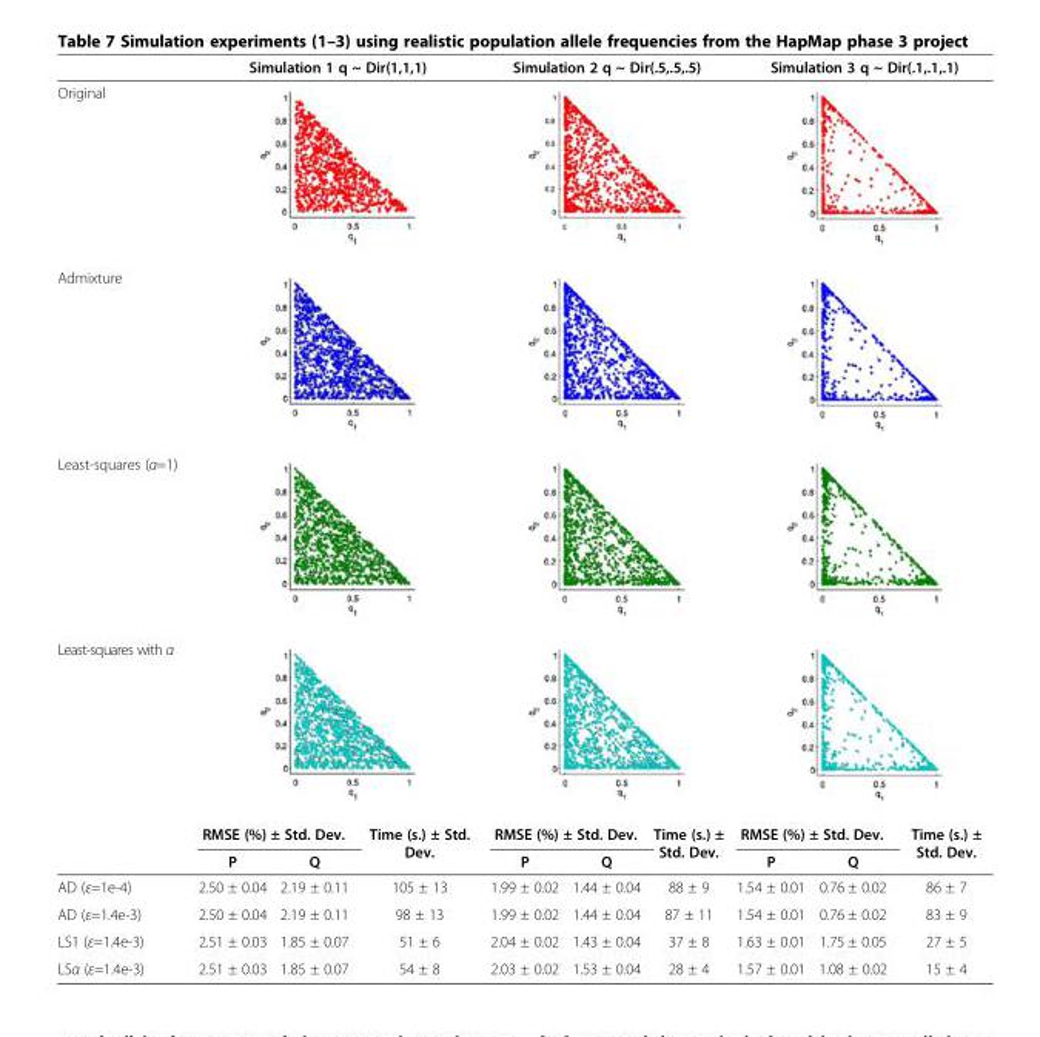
<table><thead><tr><td rowspan="2">Original</td><td colspan="3">Simulation 1 q ~ Dir(1,1,1)</td><td colspan="3">Simulation 2 q ~ Dir(.5,.5,.5)</td><td colspan="3">Simulation 3 q ~ Dir(.1,.1,.1)</td></tr><tr><td></td><td></td><td></td><td></td><td></td><td></td><td></td><td></td><td></td></tr></thead><tbody><tr><td colspan="10">Admixture</td></tr><tr><td colspan="10">Least-squares (α=1)</td></tr><tr><td colspan="10">Least-squares with α</td></tr><tr><td></td><td colspan="2">RMSE (%) ± Std. Dev.</td><td rowspan="2">Time (s.) ± Std. Dev.</td><td colspan="2">RMSE (%) ± Std. Dev.</td><td rowspan="2">Time (s.) ± Std. Dev.</td><td colspan="2">RMSE (%) ± Std. Dev.</td><td rowspan="2">Time (s.) ± Std. Dev.</td></tr><tr><td></td><td>P</td><td>Q</td><td>P</td><td>Q</td><td>P</td><td>Q</td></tr><tr><td>AD (ε=1e-4)</td><td>2.50 ± 0.04</td><td>2.19 ± 0.11</td><td>105 ± 13</td><td>1.99 ± 0.02</td><td>1.44 ± 0.04</td><td>88 ± 9</td><td>1.54 ± 0.01</td><td>0.76 ± 0.02</td><td>86 ± 7</td></tr><tr><td>AD (ε=1.4e-3)</td><td>2.50 ± 0.04</td><td>2.19 ± 0.11</td><td>98 ± 13</td><td>1.99 ± 0.02</td><td>1.44 ± 0.04</td><td>87 ± 11</td><td>1.54 ± 0.01</td><td>0.76 ± 0.02</td><td>83 ± 9</td></tr><tr><td>LS1 (ε=1.4e-3)</td><td>2.51 ± 0.03</td><td>1.85 ± 0.07</td><td>51 ± 6</td><td>2.04 ± 0.02</td><td>1.43 ± 0.04</td><td>37 ± 8</td><td>1.63 ± 0.01</td><td>1.75 ± 0.05</td><td>27 ± 5</td></tr><tr><td>LSα (ε=1.4e-3)</td><td>2.51 ± 0.03</td><td>1.85 ± 0.07</td><td>54 ± 8</td><td>2.03 ± 0.02</td><td>1.53 ± 0.04</td><td>28 ± 4</td><td>1.57 ± 0.01</td><td>1.08 ± 0.02</td><td>15 ± 4</td></tr></tbody></table>